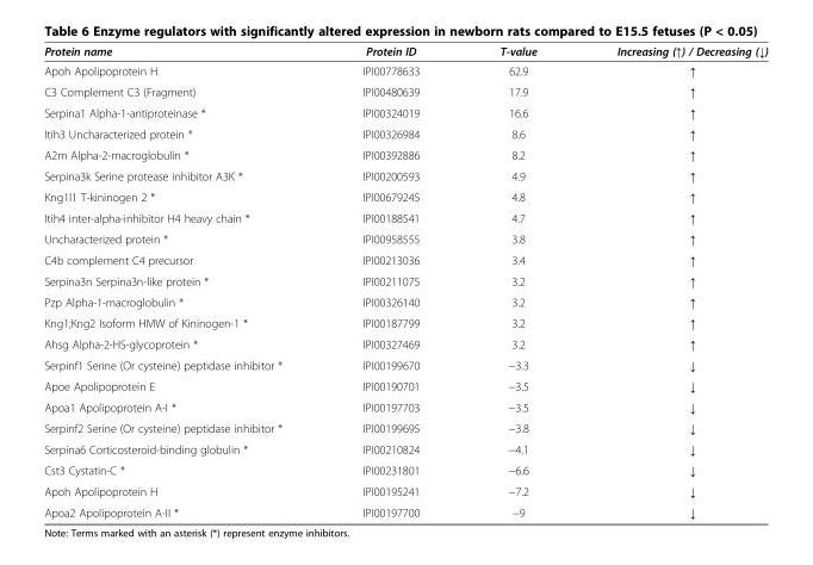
<table><thead><tr><td>Protein name</td><td>Protein ID</td><td>T-value</td><td>Increasing (↑) / Decreasing (↓)</td></tr></thead><tbody><tr><td>Apoh Apolipoprotein H</td><td>IPI00778633</td><td>62.9</td><td>↑</td></tr><tr><td>C3 Complement C3 (Fragment)</td><td>IPI00480639</td><td>17.9</td><td>↑</td></tr><tr><td>Serpina1 Alpha-1-antiproteinase *</td><td>IPI00324019</td><td>16.6</td><td>↑</td></tr><tr><td>Itih3 Uncharacterized protein *</td><td>IPI00326984</td><td>8.6</td><td>↑</td></tr><tr><td>A2m Alpha-2-macroglobulin *</td><td>IPI00392886</td><td>8.2</td><td>↑</td></tr><tr><td>Serpina3k Serine protease inhibitor A3K *</td><td>IPI00200593</td><td>4.9</td><td>↑</td></tr><tr><td>Kng1l1 T-kininogen 2 *</td><td>IPI00679245</td><td>4.8</td><td>↑</td></tr><tr><td>Itih4 inter-alpha-inhibitor H4 heavy chain *</td><td>IPI00188541</td><td>4.7</td><td>↑</td></tr><tr><td>Uncharacterized protein *</td><td>IPI00958555</td><td>3.8</td><td>↑</td></tr><tr><td>C4b complement C4 precursor</td><td>IPI00213036</td><td>3.4</td><td>↑</td></tr><tr><td>Serpina3n Serpina3n-like protein *</td><td>IPI00211075</td><td>3.2</td><td>↑</td></tr><tr><td>Pzp Alpha-1-macroglobulin *</td><td>IPI00326140</td><td>3.2</td><td>↑</td></tr><tr><td>Kng1;Kng2 Isoform HMW of Kininogen-1 *</td><td>IPI00187799</td><td>3.2</td><td>↑</td></tr><tr><td>Ahsg Alpha-2-HS-glycoprotein *</td><td>IPI00327469</td><td>3.2</td><td>↑</td></tr><tr><td>Serpinf1 Serine (Or cysteine) peptidase inhibitor *</td><td>IPI00199670</td><td>−3.3</td><td>↓</td></tr><tr><td>Apoe Apolipoprotein E</td><td>IPI00190701</td><td>−3.5</td><td>↓</td></tr><tr><td>Apoa1 Apolipoprotein A-I *</td><td>IPI00197703</td><td>−3.5</td><td>↓</td></tr><tr><td>Serpinf2 Serine (Or cysteine) peptidase inhibitor *</td><td>IPI00199695</td><td>−3.8</td><td>↓</td></tr><tr><td>Serpina6 Corticosteroid-binding globulin *</td><td>IPI00210824</td><td>−4.1</td><td>↓</td></tr><tr><td>Cst3 Cystatin-C *</td><td>IPI00231801</td><td>−6.6</td><td>↓</td></tr><tr><td>Apoh Apolipoprotein H</td><td>IPI00195241</td><td>−7.2</td><td>↓</td></tr><tr><td>Apoa2 Apolipoprotein A-II *</td><td>IPI00197700</td><td>−9</td><td>↓</td></tr></tbody></table>